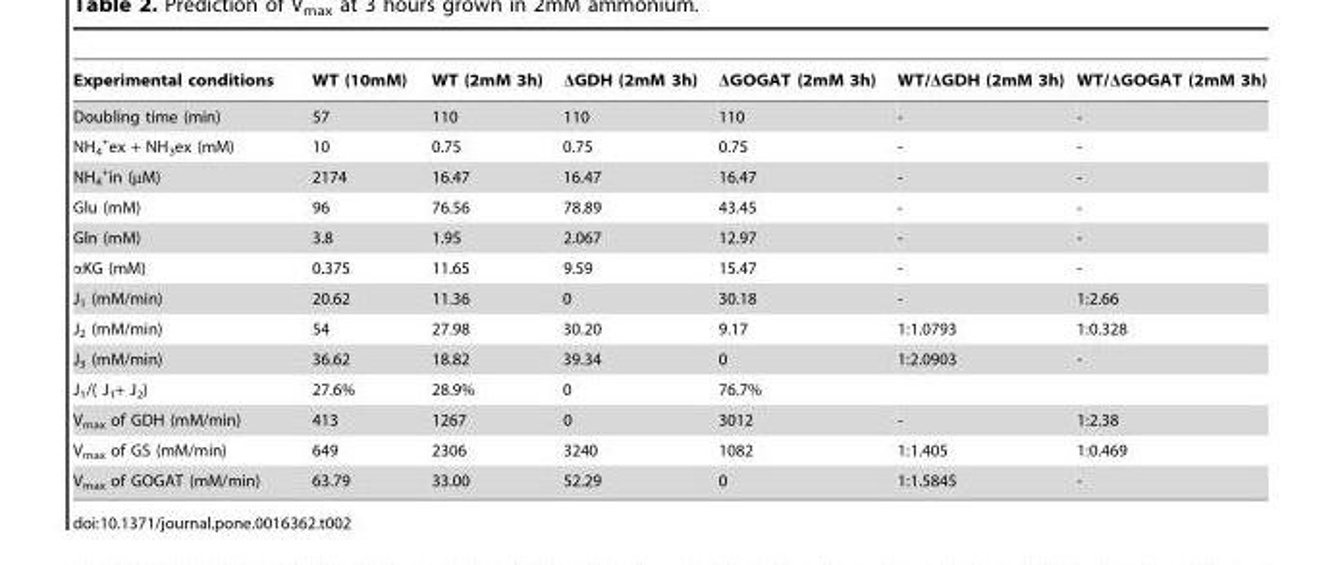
<table><thead><tr><td>Experimental conditions</td><td>WT (10mM)</td><td>WT (2mM 3h)</td><td>ΔGDH (2mM 3h)</td><td>ΔGOGAT (2mM 3h)</td><td>WT/ΔGDH (2mM 3h)</td><td>WT/ΔGOGAT (2mM 3h)</td></tr></thead><tbody><tr><td>Doubling time (min)</td><td>57</td><td>110</td><td>110</td><td>110</td><td>-</td><td>-</td></tr><tr><td>NH<sub>4</sub> <sup>+</sup>ex + NH<sub>3</sub>ex (mM)</td><td>10</td><td>0.75</td><td>0.75</td><td>0.75</td><td>-</td><td>-</td></tr><tr><td>NH<sub>4</sub> <sup>+</sup>in (µM)</td><td>2174</td><td>16.47</td><td>16.47</td><td>16.47</td><td>-</td><td>-</td></tr><tr><td>Glu (mM)</td><td>96</td><td>76.56</td><td>78.89</td><td>43.45</td><td>-</td><td>-</td></tr><tr><td>Gln (mM)</td><td>3.8</td><td>1.95</td><td>2.067</td><td>12.97</td><td>-</td><td>-</td></tr><tr><td>αKG (mM)</td><td>0.375</td><td>11.65</td><td>9.59</td><td>15.47</td><td>-</td><td>-</td></tr><tr><td>J<sub>1</sub> (mM/min)</td><td>20.62</td><td>11.36</td><td>0</td><td>30.18</td><td>-</td><td>1:2.66</td></tr><tr><td>J<sub>2</sub> (mM/min)</td><td>54</td><td>27.98</td><td>30.20</td><td>9.17</td><td>1:1.0793</td><td>1:0.328</td></tr><tr><td>J<sub>3</sub> (mM/min)</td><td>36.62</td><td>18.82</td><td>39.34</td><td>0</td><td>1:2.0903</td><td>-</td></tr><tr><td>J<sub>1</sub>/( J<sub>1</sub>+ J<sub>2</sub>)</td><td>27.6%</td><td>28.9%</td><td>0</td><td>76.7%</td><td></td><td></td></tr><tr><td>V<sub>max</sub> of GDH (mM/min)</td><td>413</td><td>1267</td><td>0</td><td>3012</td><td>-</td><td>1:2.38</td></tr><tr><td>V<sub>max</sub> of GS (mM/min)</td><td>649</td><td>2306</td><td>3240</td><td>1082</td><td>1:1.405</td><td>1:0.469</td></tr><tr><td>V<sub>max</sub> of GOGAT (mM/min)</td><td>63.79</td><td>33.00</td><td>52.29</td><td>0</td><td>1:1.5845</td><td>-</td></tr></tbody></table>